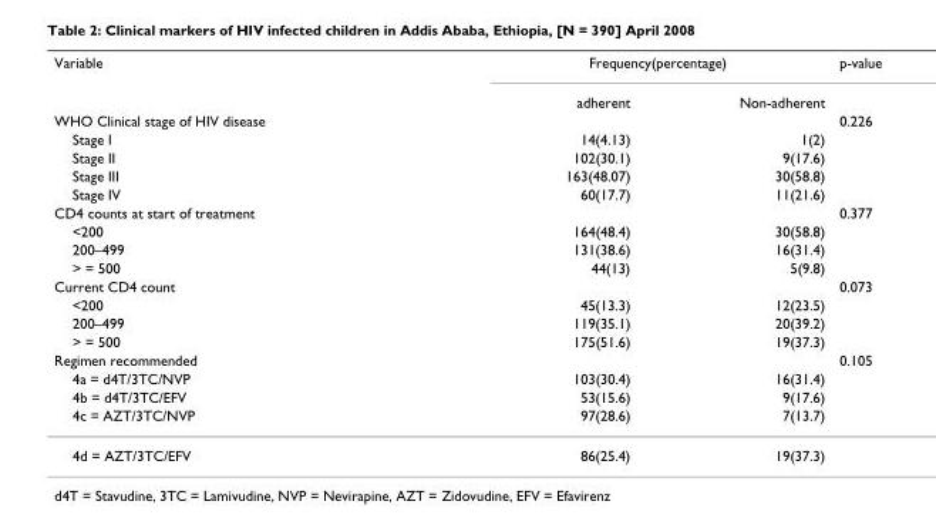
<table><thead><tr><td rowspan="19">Variable WHO Clinical stage of HIV disease Stage I Stage II Stage III Stage IV CD4 counts at start of treatment &lt;200 200–499 &gt; = 500 Current CD4 count &lt;200 200–499 &gt; = 500 Regimen recommended 4a = d4T/3TC/NVP 4b = d4T/3TC/EFV 4c = AZT/3TC/NVP</td><td colspan="2">Frequency(percentage)</td><td rowspan="19">p-value 0.226 0.377 0.073 0.105</td></tr><tr><td rowspan="18">adherent 14(4.13) 102(30.1) 163(48.07) 60(17.7) 164(48.4) 131(38.6) 44(13) 45(13.3) 119(35.1) 175(51.6) 103(30.4) 53(15.6) 97(28.6)</td><td rowspan="18">Non-adherent 1(2) 9(17.6) 30(58.8) 11(21.6) 30(58.8) 16(31.4) 5(9.8) 12(23.5) 20(39.2) 19(37.3) 16(31.4) 9(17.6) 7(13.7)</td></tr><tr></tr><tr></tr><tr></tr><tr></tr><tr></tr><tr></tr><tr></tr><tr></tr><tr></tr><tr></tr><tr></tr><tr></tr><tr></tr><tr></tr><tr></tr><tr></tr><tr></tr></thead><tbody><tr><td>4d = AZT/3TC/EFV</td><td>86(25.4)</td><td>19(37.3)</td><td></td></tr></tbody></table>